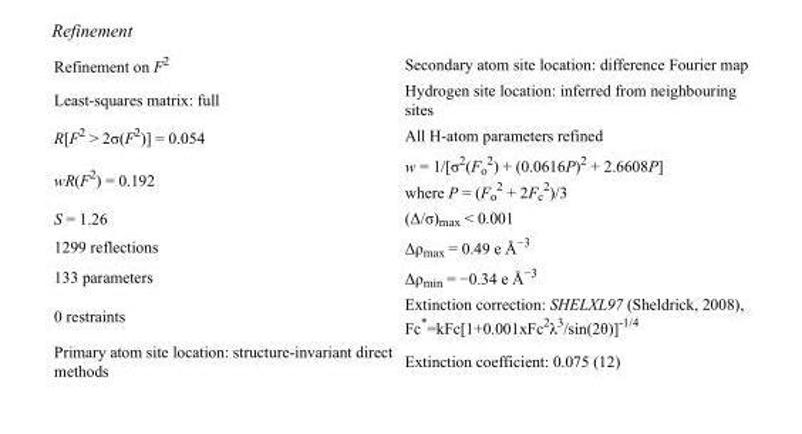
<table><tbody><tr><td>Refinement on F<sup>2</sup></td><td>Secondary atom site location: difference Fourier map</td></tr><tr><td>Least-squares matrix: full</td><td>Hydrogen site location: inferred from neighbouring sites</td></tr><tr><td>R[F<sup>2</sup> &gt; 2σ(F<sup>2</sup>)] = 0.054</td><td>All H-atom parameters refined</td></tr><tr><td>wR(F<sup>2</sup>) = 0.192</td><td>w = 1/[σ<sup>2</sup>(F<sub>o</sub> <sup>2</sup>) + (0.0616P)<sup>2</sup> + 2.6608P] where P = (F<sub>o</sub> <sup>2</sup> + 2F<sub>c</sub> <sup>2</sup>)/3</td></tr><tr><td>S = 1.26</td><td>(Δ/σ)<sub>max</sub> &lt; 0.001</td></tr><tr><td>1299 reflections</td><td>Δρ<sub>max</sub> = 0.49 e Å<sup>−3</sup></td></tr><tr><td>133 parameters</td><td>Δρ<sub>min</sub> = −0.34 e Å<sup>−3</sup></td></tr><tr><td>0 restraints</td><td>Extinction correction: SHELXL97 (Sheldrick, 2008), Fc*=kFc[1+0.001xFc<sup>2</sup>λ<sup>3</sup>/sin(2θ)]<sup>-1/4</sup></td></tr><tr><td>Primary atom site location: structure-invariant direct methods</td><td>Extinction coefficient: 0.075 (12)</td></tr></tbody></table>